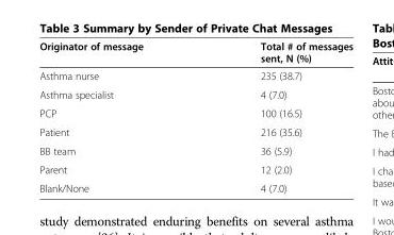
<table><thead><tr><td>Originator of message</td><td>Total # of messages sent, N (%)</td></tr></thead><tbody><tr><td>Asthma nurse</td><td>235 (38.7)</td></tr><tr><td>Asthma specialist</td><td>4 (7.0)</td></tr><tr><td>PCP</td><td>100 (16.5)</td></tr><tr><td>Patient</td><td>216 (35.6)</td></tr><tr><td>BB team</td><td>36 (5.9)</td></tr><tr><td>Parent</td><td>12 (2.0)</td></tr><tr><td>Blank/None</td><td>4 (7.0)</td></tr></tbody></table>